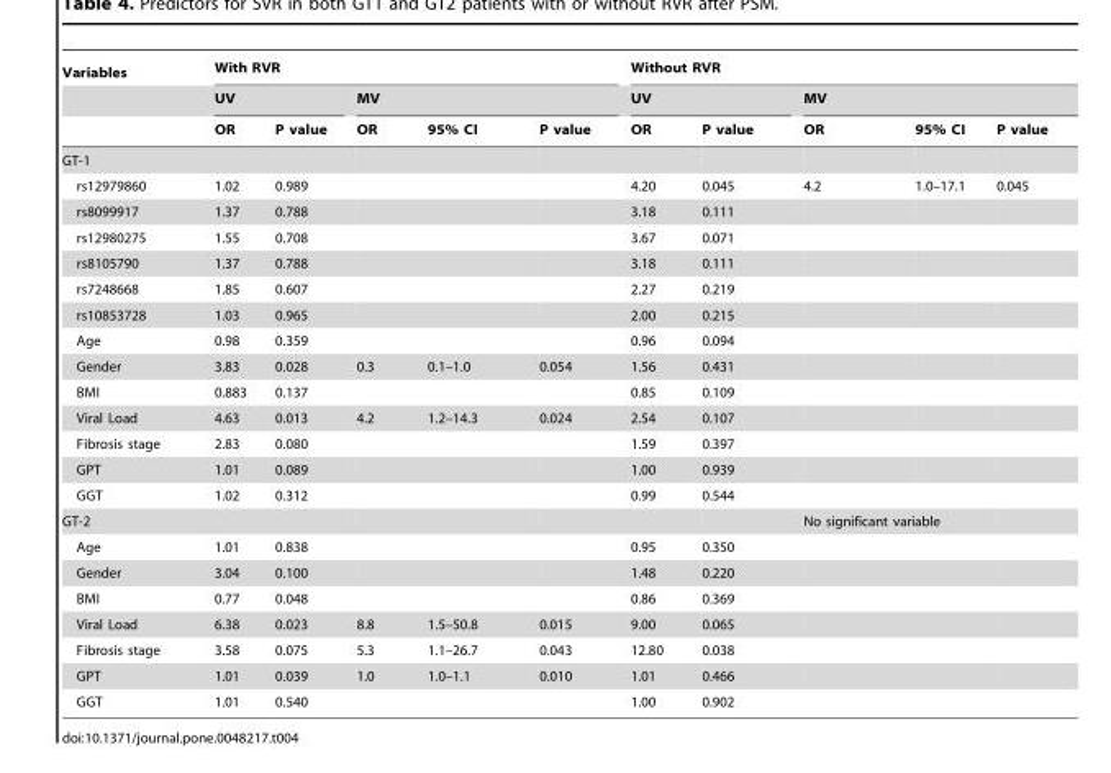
<table><thead><tr><td rowspan="3">Variables</td><td colspan="5">With RVR</td><td colspan="5">Without RVR</td></tr><tr><td colspan="2">UV</td><td colspan="3">MV</td><td colspan="2">UV</td><td colspan="3">MV</td></tr><tr><td>OR</td><td>P value</td><td>OR</td><td>95% CI</td><td>P value</td><td>OR</td><td>P value</td><td>OR</td><td>95% CI</td><td>P value</td></tr></thead><tbody><tr><td colspan="11">GT-1</td></tr><tr><td>rs12979860</td><td>1.02</td><td>0.989</td><td></td><td></td><td></td><td>4.20</td><td>0.045</td><td>4.2</td><td>1.0–17.1</td><td>0.045</td></tr><tr><td>rs8099917</td><td>1.37</td><td>0.788</td><td></td><td></td><td></td><td>3.18</td><td>0.111</td><td></td><td></td><td></td></tr><tr><td>rs12980275</td><td>1.55</td><td>0.708</td><td></td><td></td><td></td><td>3.67</td><td>0.071</td><td></td><td></td><td></td></tr><tr><td>rs8105790</td><td>1.37</td><td>0.788</td><td></td><td></td><td></td><td>3.18</td><td>0.111</td><td></td><td></td><td></td></tr><tr><td>rs7248668</td><td>1.85</td><td>0.607</td><td></td><td></td><td></td><td>2.27</td><td>0.219</td><td></td><td></td><td></td></tr><tr><td>rs10853728</td><td>1.03</td><td>0.965</td><td></td><td></td><td></td><td>2.00</td><td>0.215</td><td></td><td></td><td></td></tr><tr><td>Age</td><td>0.98</td><td>0.359</td><td></td><td></td><td></td><td>0.96</td><td>0.094</td><td></td><td></td><td></td></tr><tr><td>Gender</td><td>3.83</td><td>0.028</td><td>0.3</td><td>0.1–1.0</td><td>0.054</td><td>1.56</td><td>0.431</td><td></td><td></td><td></td></tr><tr><td>BMI</td><td>0.883</td><td>0.137</td><td></td><td></td><td></td><td>0.85</td><td>0.109</td><td></td><td></td><td></td></tr><tr><td>Viral Load</td><td>4.63</td><td>0.013</td><td>4.2</td><td>1.2–14.3</td><td>0.024</td><td>2.54</td><td>0.107</td><td></td><td></td><td></td></tr><tr><td>Fibrosis stage</td><td>2.83</td><td>0.080</td><td></td><td></td><td></td><td>1.59</td><td>0.397</td><td></td><td></td><td></td></tr><tr><td>GPT</td><td>1.01</td><td>0.089</td><td></td><td></td><td></td><td>1.00</td><td>0.939</td><td></td><td></td><td></td></tr><tr><td>GGT</td><td>1.02</td><td>0.312</td><td></td><td></td><td></td><td>0.99</td><td>0.544</td><td></td><td></td><td></td></tr><tr><td>GT-2</td><td></td><td></td><td></td><td></td><td></td><td></td><td></td><td colspan="2">No significant variable</td><td></td></tr><tr><td>Age</td><td>1.01</td><td>0.838</td><td></td><td></td><td></td><td>0.95</td><td>0.350</td><td colspan="2"></td><td></td></tr><tr><td>Gender</td><td>3.04</td><td>0.100</td><td></td><td></td><td></td><td>1.48</td><td>0.220</td><td colspan="2"></td><td></td></tr><tr><td>BMI</td><td>0.77</td><td>0.048</td><td></td><td></td><td></td><td>0.86</td><td>0.369</td><td colspan="2"></td><td></td></tr><tr><td>Viral Load</td><td>6.38</td><td>0.023</td><td>8.8</td><td>1.5–50.8</td><td>0.015</td><td>9.00</td><td>0.065</td><td colspan="2"></td><td></td></tr><tr><td>Fibrosis stage</td><td>3.58</td><td>0.075</td><td>5.3</td><td>1.1–26.7</td><td>0.043</td><td>12.80</td><td>0.038</td><td colspan="2"></td><td></td></tr><tr><td>GPT</td><td>1.01</td><td>0.039</td><td>1.0</td><td>1.0–1.1</td><td>0.010</td><td>1.01</td><td>0.466</td><td colspan="2"></td><td></td></tr><tr><td>GGT</td><td>1.01</td><td>0.540</td><td></td><td></td><td></td><td>1.00</td><td>0.902</td><td colspan="2"></td><td></td></tr></tbody></table>